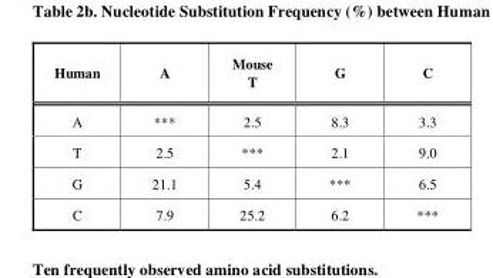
<table><thead><tr><td>Human</td><td>A</td><td>Mouse T</td><td>G</td><td>C</td></tr></thead><tbody><tr><td>A</td><td>***</td><td>2.5</td><td>8.3</td><td>3.3</td></tr><tr><td>T</td><td>2.5</td><td>***</td><td>2.1</td><td>9.0</td></tr><tr><td>G</td><td>21.1</td><td>5.4</td><td>***</td><td>6.5</td></tr><tr><td>C</td><td>7.9</td><td>25.2</td><td>6.2</td><td>***</td></tr></tbody></table>